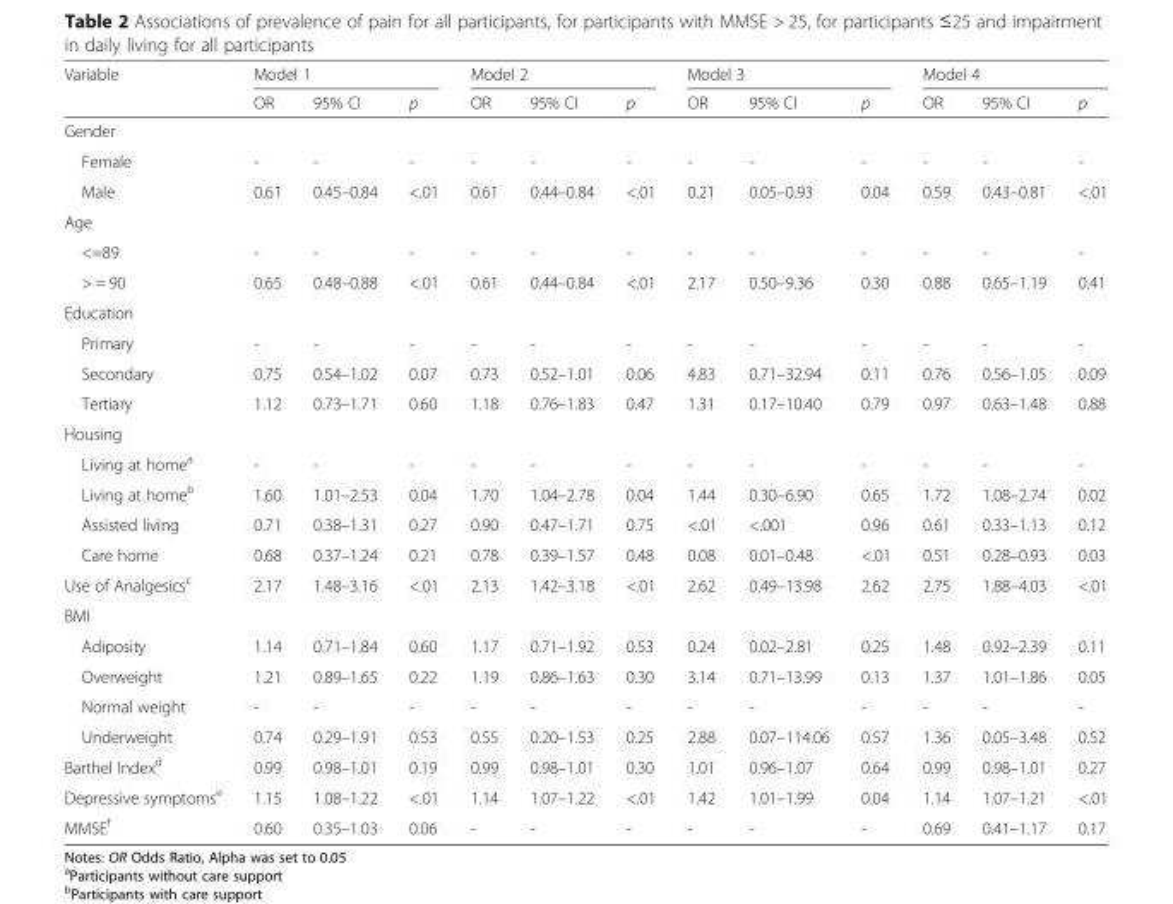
<table><thead><tr><td rowspan="2">Variable</td><td colspan="3">Model 1</td><td colspan="3">Model 2</td><td colspan="3">Model 3</td><td colspan="3">Model 4</td></tr><tr><td>OR</td><td>95% CI</td><td>p</td><td>OR</td><td>95% CI</td><td>p</td><td>OR</td><td>95% CI</td><td>p</td><td>OR</td><td>95% CI</td><td>p</td></tr></thead><tbody><tr><td colspan="13">Gender</td></tr><tr><td>Female</td><td>-</td><td>-</td><td>-</td><td>-</td><td>-</td><td>-</td><td>-</td><td>-</td><td>-</td><td>-</td><td>-</td><td>-</td></tr><tr><td>Male</td><td>0.61</td><td>0.45–0.84</td><td>&lt;.01</td><td>0.61</td><td>0.44–0.84</td><td>&lt;.01</td><td>0.21</td><td>0.05–0.93</td><td>0.04</td><td>0.59</td><td>0.43–0.81</td><td>&lt;.01</td></tr><tr><td colspan="13">Age</td></tr><tr><td>&lt;=89</td><td>-</td><td>-</td><td>-</td><td>-</td><td>-</td><td>-</td><td>-</td><td>-</td><td>-</td><td>-</td><td>-</td><td>-</td></tr><tr><td>&gt; = 90</td><td>0.65</td><td>0.48–0.88</td><td>&lt;.01</td><td>0.61</td><td>0.44–0.84</td><td>&lt;.01</td><td>2.17</td><td>0.50–9.36</td><td>0.30</td><td>0.88</td><td>0.65–1.19</td><td>0.41</td></tr><tr><td colspan="13">Education</td></tr><tr><td>Primary</td><td>-</td><td>-</td><td>-</td><td>-</td><td>-</td><td>-</td><td>-</td><td>-</td><td>-</td><td>-</td><td>-</td><td>-</td></tr><tr><td>Secondary</td><td>0.75</td><td>0.54–1.02</td><td>0.07</td><td>0.73</td><td>0.52–1.01</td><td>0.06</td><td>4.83</td><td>0.71–32.94</td><td>0.11</td><td>0.76</td><td>0.56–1.05</td><td>0.09</td></tr><tr><td>Tertiary</td><td>1.12</td><td>0.73–1.71</td><td>0.60</td><td>1.18</td><td>0.76–1.83</td><td>0.47</td><td>1.31</td><td>0.17–10.40</td><td>0.79</td><td>0.97</td><td>0.63–1.48</td><td>0.88</td></tr><tr><td colspan="13">Housing</td></tr><tr><td>Living at home<sup>a</sup></td><td>-</td><td>-</td><td>-</td><td>-</td><td>-</td><td>-</td><td>-</td><td>-</td><td>-</td><td>-</td><td>-</td><td>-</td></tr><tr><td>Living at home<sup>b</sup></td><td>1.60</td><td>1.01–2.53</td><td>0.04</td><td>1.70</td><td>1.04–2.78</td><td>0.04</td><td>1.44</td><td>0.30–6.90</td><td>0.65</td><td>1.72</td><td>1.08–2.74</td><td>0.02</td></tr><tr><td>Assisted living</td><td>0.71</td><td>0.38–1.31</td><td>0.27</td><td>0.90</td><td>0.47–1.71</td><td>0.75</td><td>&lt;.01</td><td>&lt;.001</td><td>0.96</td><td>0.61</td><td>0.33–1.13</td><td>0.12</td></tr><tr><td>Care home</td><td>0.68</td><td>0.37–1.24</td><td>0.21</td><td>0.78</td><td>0.39–1.57</td><td>0.48</td><td>0.08</td><td>0.01–0.48</td><td>&lt;.01</td><td>0.51</td><td>0.28–0.93</td><td>0.03</td></tr><tr><td>Use of Analgesics<sup>c</sup></td><td>2.17</td><td>1.48–3.16</td><td>&lt;.01</td><td>2.13</td><td>1.42–3.18</td><td>&lt;.01</td><td>2.62</td><td>0.49–13.98</td><td>2.62</td><td>2.75</td><td>1.88–4.03</td><td>&lt;.01</td></tr><tr><td colspan="13">BMI</td></tr><tr><td>Adiposity</td><td>1.14</td><td>0.71–1.84</td><td>0.60</td><td>1.17</td><td>0.71–1.92</td><td>0.53</td><td>0.24</td><td>0.02–2.81</td><td>0.25</td><td>1.48</td><td>0.92–2.39</td><td>0.11</td></tr><tr><td>Overweight</td><td>1.21</td><td>0.89–1.65</td><td>0.22</td><td>1.19</td><td>0.86–1.63</td><td>0.30</td><td>3.14</td><td>0.71–13.99</td><td>0.13</td><td>1.37</td><td>1.01–1.86</td><td>0.05</td></tr><tr><td>Normal weight</td><td>-</td><td>-</td><td>-</td><td>-</td><td>-</td><td>-</td><td>-</td><td>-</td><td>-</td><td>-</td><td>-</td><td>-</td></tr><tr><td>Underweight</td><td>0.74</td><td>0.29–1.91</td><td>0.53</td><td>0.55</td><td>0.20–1.53</td><td>0.25</td><td>2.88</td><td>0.07–114.06</td><td>0.57</td><td>1.36</td><td>0.05–3.48</td><td>0.52</td></tr><tr><td>Barthel Index<sup>d</sup></td><td>0.99</td><td>0.98–1.01</td><td>0.19</td><td>0.99</td><td>0.98–1.01</td><td>0.30</td><td>1.01</td><td>0.96–1.07</td><td>0.64</td><td>0.99</td><td>0.98–1.01</td><td>0.27</td></tr><tr><td>Depressive symptoms<sup>e</sup></td><td>1.15</td><td>1.08–1.22</td><td>&lt;.01</td><td>1.14</td><td>1.07–1.22</td><td>&lt;.01</td><td>1.42</td><td>1.01–1.99</td><td>0.04</td><td>1.14</td><td>1.07–1.21</td><td>&lt;.01</td></tr><tr><td>MMSE<sup>f</sup></td><td>0.60</td><td>0.35–1.03</td><td>0.06</td><td>-</td><td>-</td><td>-</td><td>-</td><td>-</td><td>-</td><td>0.69</td><td>0.41–1.17</td><td>0.17</td></tr></tbody></table>